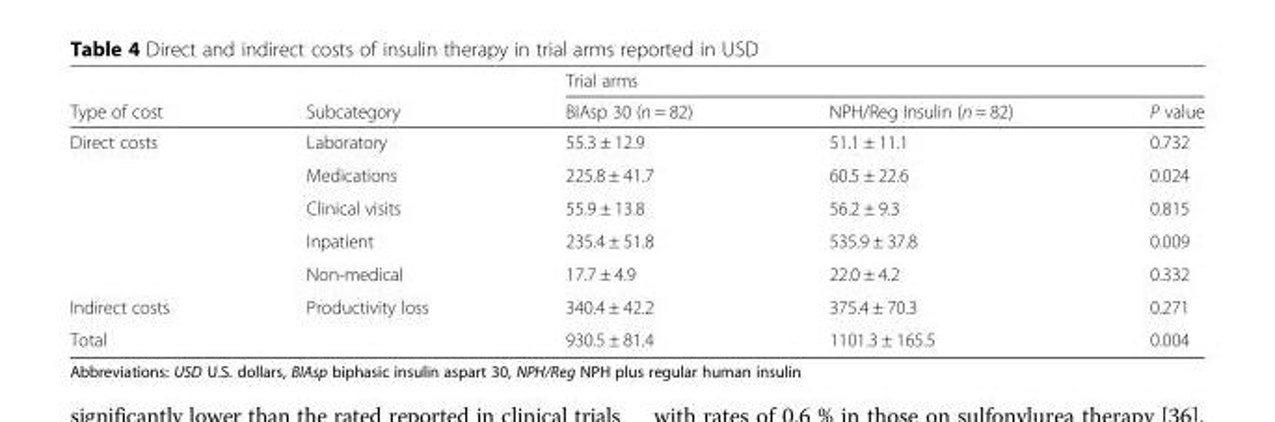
<table><thead><tr><td rowspan="2">Type of cost</td><td rowspan="2">Subcategory</td><td colspan="3">Trial arms</td></tr><tr><td>BIAsp 30 (n = 82)</td><td>NPH/Reg Insulin (n = 82)</td><td>P value</td></tr></thead><tbody><tr><td rowspan="5">Direct costs</td><td>Laboratory</td><td>55.3 ± 12.9</td><td>51.1 ± 11.1</td><td>0.732</td></tr><tr><td>Medications</td><td>225.8 ± 41.7</td><td>60.5 ± 22.6</td><td>0.024</td></tr><tr><td>Clinical visits</td><td>55.9 ± 13.8</td><td>56.2 ± 9.3</td><td>0.815</td></tr><tr><td>Inpatient</td><td>235.4 ± 51.8</td><td>535.9 ± 37.8</td><td>0.009</td></tr><tr><td>Non-medical</td><td>17.7 ± 4.9</td><td>22.0 ± 4.2</td><td>0.332</td></tr><tr><td>Indirect costs</td><td>Productivity loss</td><td>340.4 ± 42.2</td><td>375.4 ± 70.3</td><td>0.271</td></tr><tr><td>Total</td><td></td><td>930.5 ± 81.4</td><td>1101.3 ± 165.5</td><td>0.004</td></tr></tbody></table>